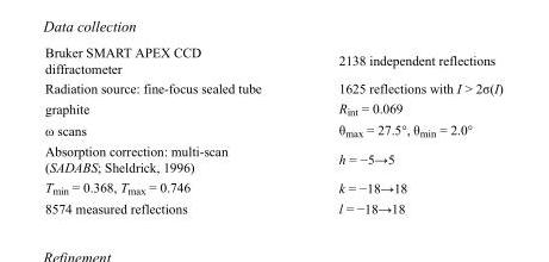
<table><tbody><tr><td>Bruker SMART APEX CCD diffractometer</td><td>2138 independent reflections</td></tr><tr><td>Radiation source: fine-focus sealed tube</td><td>1625 reflections with I &gt; 2σ(I)</td></tr><tr><td>graphite</td><td>R<sub>int</sub> = 0.069</td></tr><tr><td>ω scans</td><td>θ<sub>max</sub> = 27.5°, θ<sub>min</sub> = 2.0°</td></tr><tr><td>Absorption correction: multi-scan (SADABS; Sheldrick, 1996)</td><td>h = −5→5</td></tr><tr><td>T<sub>min</sub> = 0.368, T<sub>max</sub> = 0.746</td><td>k = −18→18</td></tr><tr><td>8574 measured reflections</td><td>l = −18→18</td></tr></tbody></table>